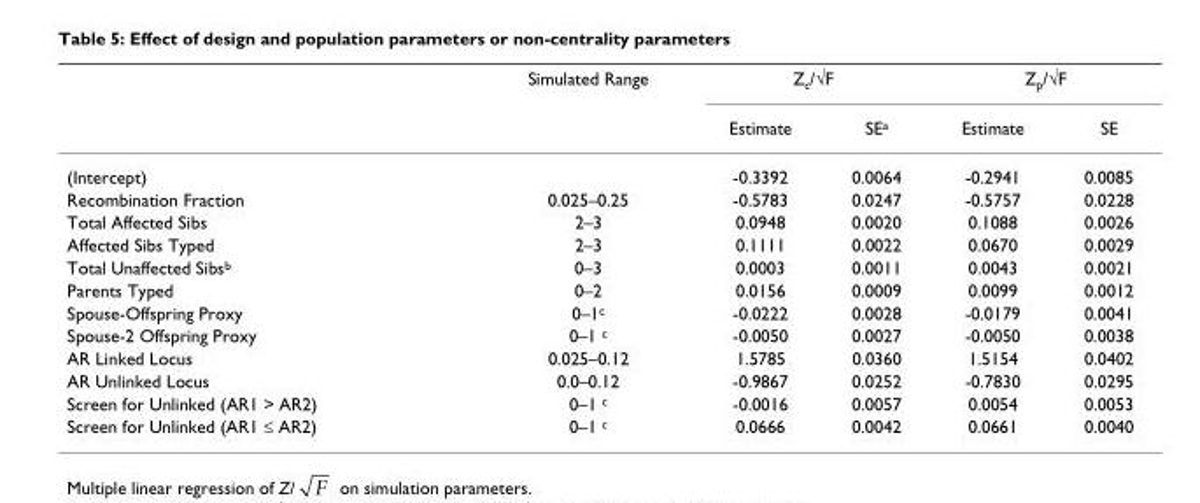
<table><thead><tr><td rowspan="2"></td><td rowspan="2">Simulated Range</td><td colspan="2">Z<sub>c</sub>/√F</td><td colspan="2">Z<sub>p</sub>/√F</td></tr><tr><td>Estimate</td><td>SE<sup>a</sup></td><td>Estimate</td><td>SE</td></tr></thead><tbody><tr><td>(Intercept)</td><td></td><td>-0.3392</td><td>0.0064</td><td>-0.2941</td><td>0.0085</td></tr><tr><td>Recombination Fraction</td><td>0.025–0.25</td><td>-0.5783</td><td>0.0247</td><td>-0.5757</td><td>0.0228</td></tr><tr><td>Total Affected Sibs</td><td>2–3</td><td>0.0948</td><td>0.0020</td><td>0.1088</td><td>0.0026</td></tr><tr><td>Affected Sibs Typed</td><td>2–3</td><td>0.1111</td><td>0.0022</td><td>0.0670</td><td>0.0029</td></tr><tr><td>Total Unaffected Sibs<sup>b</sup></td><td>0–3</td><td>0.0003</td><td>0.0011</td><td>0.0043</td><td>0.0021</td></tr><tr><td>Parents Typed</td><td>0–2</td><td>0.0156</td><td>0.0009</td><td>0.0099</td><td>0.0012</td></tr><tr><td>Spouse-Offspring Proxy</td><td>0–1<sup>c</sup></td><td>-0.0222</td><td>0.0028</td><td>-0.0179</td><td>0.0041</td></tr><tr><td>Spouse-2 Offspring Proxy</td><td>0–1 <sup>c</sup></td><td>-0.0050</td><td>0.0027</td><td>-0.0050</td><td>0.0038</td></tr><tr><td>AR Linked Locus</td><td>0.025–0.12</td><td>1.5785</td><td>0.0360</td><td>1.5154</td><td>0.0402</td></tr><tr><td>AR Unlinked Locus</td><td>0.0–0.12</td><td>-0.9867</td><td>0.0252</td><td>-0.7830</td><td>0.0295</td></tr><tr><td>Screen for Unlinked (AR1 &gt; AR2)</td><td>0–1 <sup>c</sup></td><td>-0.0016</td><td>0.0057</td><td>0.0054</td><td>0.0053</td></tr><tr><td>Screen for Unlinked (AR1 ≤ AR2)</td><td>0–1 <sup>c</sup></td><td>0.0666</td><td>0.0042</td><td>0.0661</td><td>0.0040</td></tr></tbody></table>